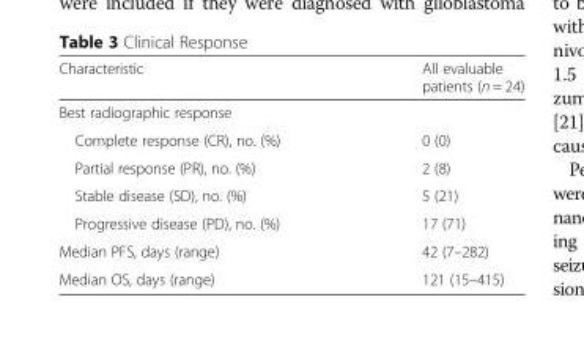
<table><thead><tr><td>Characteristic</td><td>All evaluable patients (n = 24)</td></tr></thead><tbody><tr><td colspan="2">Best radiographic response</td></tr><tr><td>Complete response (CR), no. (%)</td><td>0 (0)</td></tr><tr><td>Partial response (PR), no. (%)</td><td>2 (8)</td></tr><tr><td>Stable disease (SD), no. (%)</td><td>5 (21)</td></tr><tr><td>Progressive disease (PD), no. (%)</td><td>17 (71)</td></tr><tr><td>Median PFS, days (range)</td><td>42 (7–282)</td></tr><tr><td>Median OS, days (range)</td><td>121 (15–415)</td></tr></tbody></table>